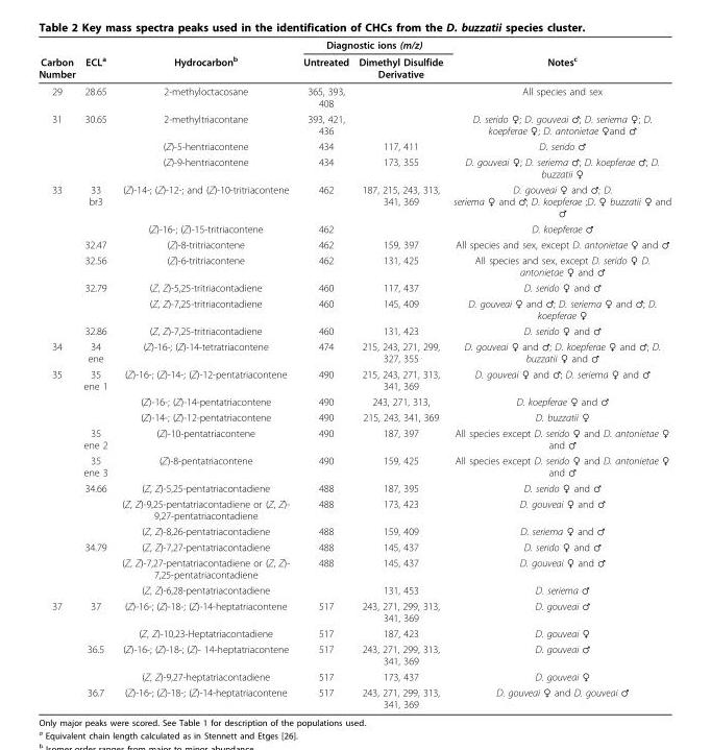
<table><thead><tr><td rowspan="2">Carbon Number</td><td rowspan="2">ECL<sup>a</sup></td><td rowspan="2">Hydrocarbon<sup>b</sup></td><td colspan="2">Diagnostic ions (m/z)</td><td rowspan="2">Notes<sup>c</sup></td></tr><tr><td>Untreated</td><td>Dimethyl Disulfide Derivative</td></tr></thead><tbody><tr><td>29</td><td>28.65</td><td>2-methyloctacosane</td><td>365, 393, 408</td><td></td><td>All species and sex</td></tr><tr><td rowspan="3">31</td><td>30.65</td><td>2-methyltriacontane</td><td>393, 421, 436</td><td></td><td>D. serido ♀; D. gouveai ♂; D. seriema ♀; D. koepferae ♀; D. antonietae ♀and ♂</td></tr><tr><td></td><td>(Z)-5-hentriacontene</td><td>434</td><td>117, 411</td><td>D. serido ♂</td></tr><tr><td></td><td>(Z)-9-hentriacontene</td><td>434</td><td>173, 355</td><td>D. gouveai ♀; D. seriema ♂; D. koepferae ♂; D. buzzatii ♀</td></tr><tr><td rowspan="7">33</td><td>33 br3</td><td>(Z)-14-; (Z)-12-; and (Z)-10-tritriacontene</td><td>462</td><td>187, 215, 243, 313, 341, 369</td><td>D. gouveai ♀ and ♂; D. seriema ♀ and ♂; D. koepferae ;D. ♀ buzzatii ♀ and ♂</td></tr><tr><td></td><td>(Z)-16-; (Z)-15-tritriacontene</td><td>462</td><td></td><td>D. koepferae ♂</td></tr><tr><td>32.47</td><td>(Z)-8-tritriacontene</td><td>462</td><td>159, 397</td><td>All species and sex, except D. antonietae ♀ and ♂</td></tr><tr><td>32.56</td><td>(Z)-6-tritriacontene</td><td>462</td><td>131, 425</td><td>All species and sex, except D. serido ♀ D. antonietae ♀ and ♂</td></tr><tr><td>32.79</td><td>(Z, Z)-5,25-tritriacontadiene</td><td>460</td><td>117, 437</td><td>D. serido ♀ and ♂</td></tr><tr><td></td><td>(Z, Z)-7,25-tritriacontadiene</td><td>460</td><td>145, 409</td><td>D. gouveai ♀ and ♂; D. seriema ♀ and ♂; D. koepferae ♀</td></tr><tr><td>32.86</td><td>(Z, Z)-7,25-tritriacontadiene</td><td>460</td><td>131, 423</td><td>D. serido ♀ and ♂</td></tr><tr><td>34</td><td>34 ene</td><td>(Z)-16-; (Z)-14-tetratriacontene</td><td>474</td><td>215, 243, 271, 299, 327, 355</td><td>D. gouveai ♀ and ♂; D. koepferae ♀ and ♂; D. buzzatii ♀ and ♂</td></tr><tr><td rowspan="11">35</td><td>35 ene 1</td><td>(Z)-16-; (Z)-14-; (Z)-12-pentatriacontene</td><td>490</td><td>215, 243, 271, 313, 341, 369</td><td>D. gouveai ♀ and ♂; D. seriema ♀ and ♂</td></tr><tr><td></td><td>(Z)-16-; (Z)-14-pentatriacontene</td><td>490</td><td>243, 271, 313,</td><td>D. koepferae ♀ and ♂</td></tr><tr><td></td><td>(Z)-14-; (Z)-12-pentatriacontene</td><td>490</td><td>215, 243, 341, 369</td><td>D. buzzatii ♀</td></tr><tr><td>35 ene 2</td><td>(Z)-10-pentatriacontene</td><td>490</td><td>187, 397</td><td>All species except D. serido ♀ and D. antonietae ♀ and ♂</td></tr><tr><td>35 ene 3</td><td>(Z)-8-pentatriacontene</td><td>490</td><td>159, 425</td><td>All species except D. serido ♀ and D. antonietae ♀ and ♂</td></tr><tr><td>34.66</td><td>(Z, Z)-5,25-pentatriacontadiene</td><td>488</td><td>187, 395</td><td>D. serido ♀ and ♂</td></tr><tr><td></td><td>(Z, Z)-9,25-pentatriacontadiene or (Z, Z)- 9,27-pentatriacontadiene</td><td>488</td><td>173, 423</td><td>D. gouveai ♀ and ♂</td></tr><tr><td></td><td>(Z, Z)-8,26-pentatriacontadiene</td><td>488</td><td>159, 409</td><td>D. seriema ♀ and ♂</td></tr><tr><td>34.79</td><td>(Z, Z)-7,27-pentatriacontadiene</td><td>488</td><td>145, 437</td><td>D. serido ♀ and ♂</td></tr><tr><td></td><td>(Z, Z)-7,27-pentatriacontadiene or (Z, Z)- 7,25-pentatriacontadiene</td><td>488</td><td>145, 437</td><td>D. gouveai ♀ and ♂</td></tr><tr><td></td><td>(Z, Z)-6,28-pentatriacontadiene</td><td></td><td>131, 453</td><td>D. seriema ♂</td></tr><tr><td rowspan="5">37</td><td>37</td><td>(Z)-16-; (Z)-18-; (Z)-14-heptatriacontene</td><td>517</td><td>243, 271, 299, 313, 341, 369</td><td>D. gouveai ♂</td></tr><tr><td></td><td>(Z, Z)-10,23-Heptatriacontadiene</td><td>517</td><td>187, 423</td><td>D. gouveai ♀</td></tr><tr><td>36.5</td><td>(Z)-16-; (Z)-18-; (Z)- 14-heptatriacontene</td><td>517</td><td>243, 271, 299, 313, 341, 369</td><td>D. gouveai ♂</td></tr><tr><td></td><td>(Z, Z)-9,27-heptatriacontadiene</td><td>517</td><td>173, 437</td><td>D. gouveai ♀</td></tr><tr><td>36.7</td><td>(Z)-16-; (Z)-18-; (Z)-14-heptatriacontene</td><td>517</td><td>243, 271, 299, 313, 341, 369</td><td>D. gouveai ♀ and D. gouveai ♂</td></tr></tbody></table>